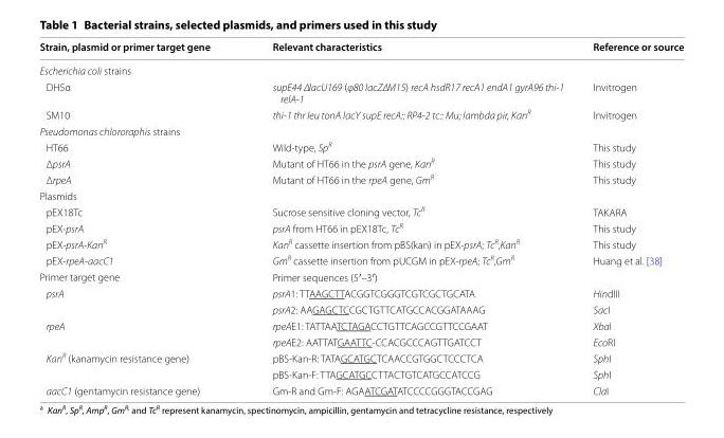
<table><thead><tr><td>Strain, plasmid or primer target gene</td><td>Relevant characteristics</td><td>Reference or source</td></tr></thead><tbody><tr><td colspan="3">Escherichia coli strains</td></tr><tr><td>DH5α</td><td>supE44 ∆lacU169 (φ80 lacZ∆M15) recA hsdR17 recA1 endA1 gyrA96 thi-1 relA-1</td><td>Invitrogen</td></tr><tr><td>SM10</td><td>thi-1 thr leu tonA lacY supE recA:: RP4-2 tc:: Mu; lambda pir, Kan<sup>R</sup></td><td>Invitrogen</td></tr><tr><td colspan="3">Pseudomonas chlororaphis strains</td></tr><tr><td>HT66</td><td>Wild-type, Sp<sup>R</sup></td><td>This study</td></tr><tr><td>ΔpsrA</td><td>Mutant of HT66 in the psrA gene, Kan<sup>R</sup></td><td>This study</td></tr><tr><td>ΔrpeA</td><td>Mutant of HT66 in the rpeA gene, Gm<sup>R</sup></td><td>This study</td></tr><tr><td colspan="3">Plasmids</td></tr><tr><td>pEX18Tc</td><td>Sucrose sensitive cloning vector, Tc<sup>R</sup></td><td>TAKARA</td></tr><tr><td>pEX-psrA</td><td>psrA from HT66 in pEX18Tc, Tc<sup>R</sup></td><td>This study</td></tr><tr><td>pEX-psrA-Kan<sup>R</sup></td><td>Kan<sup>R</sup> cassette insertion from pBS(kan) in pEX-psrA; Tc<sup>R</sup>,Kan<sup>R</sup></td><td>This study</td></tr><tr><td>pEX-rpeA-aacC1</td><td>Gm<sup>R</sup> cassette insertion from pUCGM in pEX-rpeA; Tc<sup>R</sup>,Gm<sup>R</sup></td><td>Huang et al. [38]</td></tr><tr><td>Primer target gene</td><td colspan="2">Primer sequences (5′–3′)</td></tr><tr><td rowspan="2">psrA</td><td>psrA1: TTAAG CTT ACG GTC GGG TCG TCG CTG CATA</td><td>HindIII</td></tr><tr><td>psrA2: AAGAG CTC CGC TGT TCA TGC CAC GGA TAAAG</td><td>SacI</td></tr><tr><td rowspan="2">rpeA</td><td>rpeAE1: TAT TAA TCT AGA CCT GTT CAG CCG TTC CGA AT</td><td>XbaI</td></tr><tr><td>rpeAE2: AAT TAT GAA TTC -CCA CGC CCA GTT GAT CCT</td><td>EcoRI</td></tr><tr><td rowspan="2">Kan<sup>R</sup> (kanamycin resistance gene)</td><td>pBS-Kan-R: TATA GCA TGC TCA ACC GTG GCT CCC TCA</td><td>SphI</td></tr><tr><td>pBS-Kan-F: TTA GCA TGC CTT ACT GTC ATG CCA TCC G</td><td>SphI</td></tr><tr><td>aacC1 (gentamycin resistance gene)</td><td>Gm-R and Gm-F: AGA ATC GAT ATC CCC GGG TAC CGAG</td><td>ClaI</td></tr></tbody></table>